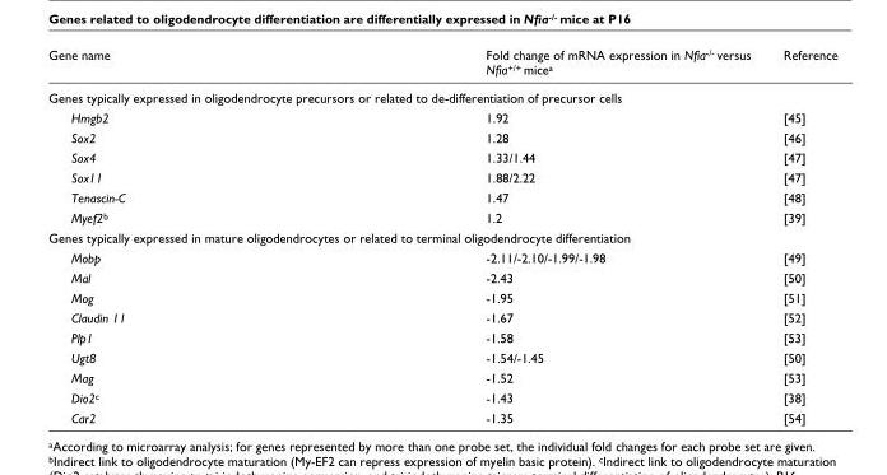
<table><thead><tr><td>Gene name</td><td>Fold change of mRNA expression in Nfia<sup>-/-</sup> versus Nfia<sup>+/+</sup> mice<sup>a</sup></td><td>Reference</td></tr></thead><tbody><tr><td colspan="3">Genes typically expressed in oligodendrocyte precursors or related to de-differentiation of precursor cells</td></tr><tr><td>Hmgb2</td><td>1.92</td><td>[45]</td></tr><tr><td>Sox2</td><td>1.28</td><td>[46]</td></tr><tr><td>Sox4</td><td>1.33/1.44</td><td>[47]</td></tr><tr><td>Sox11</td><td>1.88/2.22</td><td>[47]</td></tr><tr><td>Tenascin-C</td><td>1.47</td><td>[48]</td></tr><tr><td>Myef2<sup>b</sup></td><td>1.2</td><td>[39]</td></tr><tr><td colspan="3">Genes typically expressed in mature oligodendrocytes or related to terminal oligodendrocyte differentiation</td></tr><tr><td>Mobp</td><td>-2.11/-2.10/-1.99/-1.98</td><td>[49]</td></tr><tr><td>Mal</td><td>-2.43</td><td>[50]</td></tr><tr><td>Mog</td><td>-1.95</td><td>[51]</td></tr><tr><td>Claudin 11</td><td>-1.67</td><td>[52]</td></tr><tr><td>Plp1</td><td>-1.58</td><td>[53]</td></tr><tr><td>Ugt8</td><td>-1.54/-1.45</td><td>[50]</td></tr><tr><td>Mag</td><td>-1.52</td><td>[53]</td></tr><tr><td>Dio2<sup>c</sup></td><td>-1.43</td><td>[38]</td></tr><tr><td>Car2</td><td>-1.35</td><td>[54]</td></tr></tbody></table>